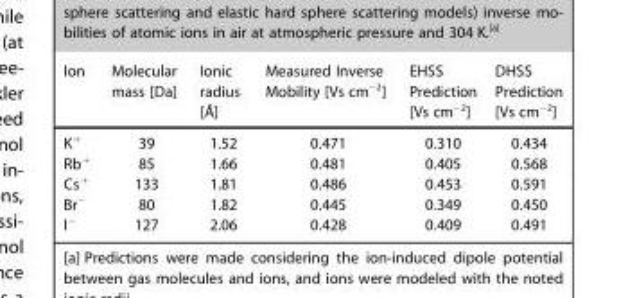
<table><thead><tr><td>Ion</td><td>Molecular mass [Da]</td><td>Ionic radius [Å]</td><td>Measured Inverse Mobility [Vs cm<sup>−2</sup>]</td><td>EHSS Prediction [Vs cm<sup>−2</sup>]</td><td>DHSS Prediction [Vs cm<sup>−2</sup>]</td></tr></thead><tbody><tr><td>K<sup>+</sup></td><td>39</td><td>1.52</td><td>0.471</td><td>0.310</td><td>0.434</td></tr><tr><td>Rb<sup>+</sup></td><td>85</td><td>1.66</td><td>0.481</td><td>0.405</td><td>0.568</td></tr><tr><td>Cs<sup>+</sup></td><td>133</td><td>1.81</td><td>0.486</td><td>0.453</td><td>0.591</td></tr><tr><td>Br<sup>−</sup></td><td>80</td><td>1.82</td><td>0.445</td><td>0.349</td><td>0.450</td></tr><tr><td>I<sup>−</sup></td><td>127</td><td>2.06</td><td>0.428</td><td>0.409</td><td>0.491</td></tr></tbody></table>